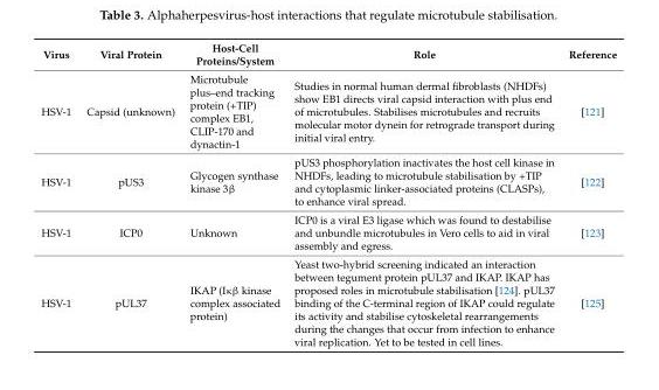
<table><thead><tr><td>Virus</td><td>Viral Protein</td><td>Host-Cell Proteins/System</td><td>Role</td><td>Reference</td></tr></thead><tbody><tr><td>HSV-1</td><td>Capsid (unknown)</td><td>Microtubule plus–end tracking protein (+TIP) complex EB1, CLIP-170 and dynactin-1</td><td>Studies in normal human dermal fibroblasts (NHDFs) show EB1 directs viral capsid interaction with plus end of microtubules. Stabilises microtubules and recruits molecular motor dynein for retrograde transport during initial viral entry.</td><td>[121]</td></tr><tr><td>HSV-1</td><td>pUS3</td><td>Glycogen synthase kinase 3β</td><td>pUS3 phosphorylation inactivates the host cell kinase in NHDFs, leading to microtubule stabilisation by +TIP and cytoplasmic linker-associated proteins (CLASPs), to enhance viral spread.</td><td>[122]</td></tr><tr><td>HSV-1</td><td>ICP0</td><td>Unknown</td><td>ICP0 is a viral E3 ligase which was found to destabilise and unbundle microtubules in Vero cells to aid in viral assembly and egress.</td><td>[123]</td></tr><tr><td>HSV-1</td><td>pUL37</td><td>IKAP (Iκβ kinase complex associated protein)</td><td>Yeast two-hybrid screening indicated an interaction between tegument protein pUL37 and IKAP. IKAP has proposed roles in microtubule stabilisation [124]. pUL37 binding of the C-terminal region of IKAP could regulate its activity and stabilise cytoskeletal rearrangements during the changes that occur from infection to enhance viral replication. Yet to be tested in cell lines.</td><td>[125]</td></tr></tbody></table>